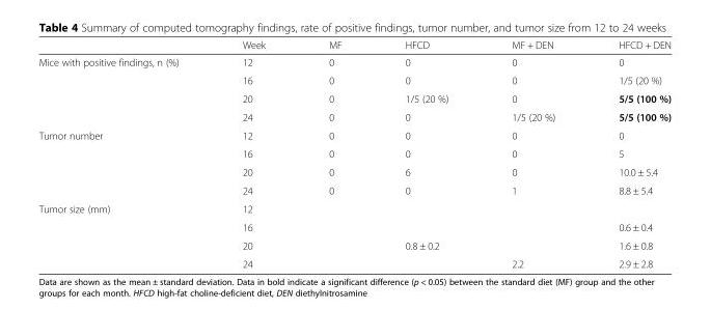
<table><thead><tr><td></td><td>Week</td><td>MF</td><td>HFCD</td><td>MF + DEN</td><td>HFCD + DEN</td></tr></thead><tbody><tr><td rowspan="4">Mice with positive findings, n (%)</td><td>12</td><td>0</td><td>0</td><td>0</td><td>0</td></tr><tr><td>16</td><td>0</td><td>0</td><td>0</td><td>1/5 (20 %)</td></tr><tr><td>20</td><td>0</td><td>1/5 (20 %)</td><td>0</td><td>5/5 (100 %)</td></tr><tr><td>24</td><td>0</td><td>0</td><td>1/5 (20 %)</td><td>5/5 (100 %)</td></tr><tr><td rowspan="4">Tumor number</td><td>12</td><td>0</td><td>0</td><td>0</td><td>0</td></tr><tr><td>16</td><td>0</td><td>0</td><td>0</td><td>5</td></tr><tr><td>20</td><td>0</td><td>6</td><td>0</td><td>10.0 ± 5.4</td></tr><tr><td>24</td><td>0</td><td>0</td><td>1</td><td>8.8 ± 5.4</td></tr><tr><td rowspan="4">Tumor size (mm)</td><td>12</td><td></td><td></td><td></td><td></td></tr><tr><td>16</td><td></td><td></td><td></td><td>0.6 ± 0.4</td></tr><tr><td>20</td><td></td><td>0.8 ± 0.2</td><td></td><td>1.6 ± 0.8</td></tr><tr><td>24</td><td></td><td></td><td>2.2</td><td>2.9 ± 2.8</td></tr></tbody></table>